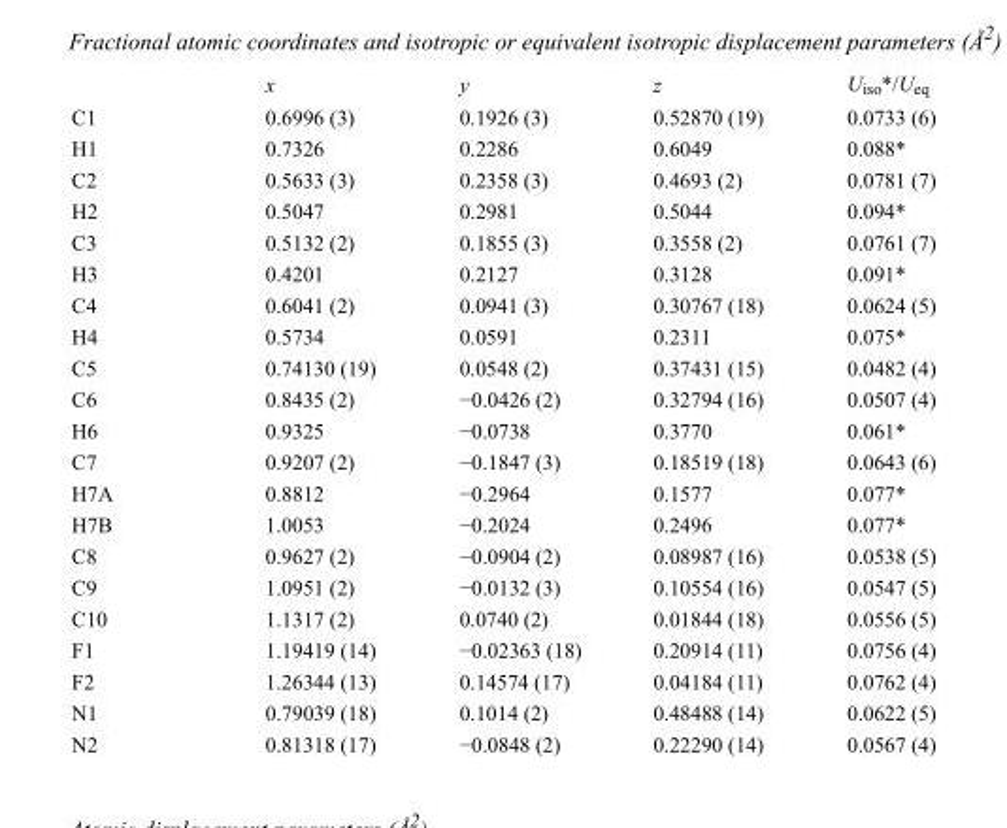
<table><thead><tr><td></td><td>x</td><td>y</td><td>z</td><td>U<sub>iso</sub>*/U<sub>eq</sub></td></tr></thead><tbody><tr><td>C1</td><td>0.6996 (3)</td><td>0.1926 (3)</td><td>0.52870 (19)</td><td>0.0733 (6)</td></tr><tr><td>H1</td><td>0.7326</td><td>0.2286</td><td>0.6049</td><td>0.088*</td></tr><tr><td>C2</td><td>0.5633 (3)</td><td>0.2358 (3)</td><td>0.4693 (2)</td><td>0.0781 (7)</td></tr><tr><td>H2</td><td>0.5047</td><td>0.2981</td><td>0.5044</td><td>0.094*</td></tr><tr><td>C3</td><td>0.5132 (2)</td><td>0.1855 (3)</td><td>0.3558 (2)</td><td>0.0761 (7)</td></tr><tr><td>H3</td><td>0.4201</td><td>0.2127</td><td>0.3128</td><td>0.091*</td></tr><tr><td>C4</td><td>0.6041 (2)</td><td>0.0941 (3)</td><td>0.30767 (18)</td><td>0.0624 (5)</td></tr><tr><td>H4</td><td>0.5734</td><td>0.0591</td><td>0.2311</td><td>0.075*</td></tr><tr><td>C5</td><td>0.74130 (19)</td><td>0.0548 (2)</td><td>0.37431 (15)</td><td>0.0482 (4)</td></tr><tr><td>C6</td><td>0.8435 (2)</td><td>−0.0426 (2)</td><td>0.32794 (16)</td><td>0.0507 (4)</td></tr><tr><td>H6</td><td>0.9325</td><td>−0.0738</td><td>0.3770</td><td>0.061*</td></tr><tr><td>C7</td><td>0.9207 (2)</td><td>−0.1847 (3)</td><td>0.18519 (18)</td><td>0.0643 (6)</td></tr><tr><td>H7A</td><td>0.8812</td><td>−0.2964</td><td>0.1577</td><td>0.077*</td></tr><tr><td>H7B</td><td>1.0053</td><td>−0.2024</td><td>0.2496</td><td>0.077*</td></tr><tr><td>C8</td><td>0.9627 (2)</td><td>−0.0904 (2)</td><td>0.08987 (16)</td><td>0.0538 (5)</td></tr><tr><td>C9</td><td>1.0951 (2)</td><td>−0.0132 (3)</td><td>0.10554 (16)</td><td>0.0547 (5)</td></tr><tr><td>C10</td><td>1.1317 (2)</td><td>0.0740 (2)</td><td>0.01844 (18)</td><td>0.0556 (5)</td></tr><tr><td>F1</td><td>1.19419 (14)</td><td>−0.02363 (18)</td><td>0.20914 (11)</td><td>0.0756 (4)</td></tr><tr><td>F2</td><td>1.26344 (13)</td><td>0.14574 (17)</td><td>0.04184 (11)</td><td>0.0762 (4)</td></tr><tr><td>N1</td><td>0.79039 (18)</td><td>0.1014 (2)</td><td>0.48488 (14)</td><td>0.0622 (5)</td></tr><tr><td>N2</td><td>0.81318 (17)</td><td>−0.0848 (2)</td><td>0.22290 (14)</td><td>0.0567 (4)</td></tr></tbody></table>